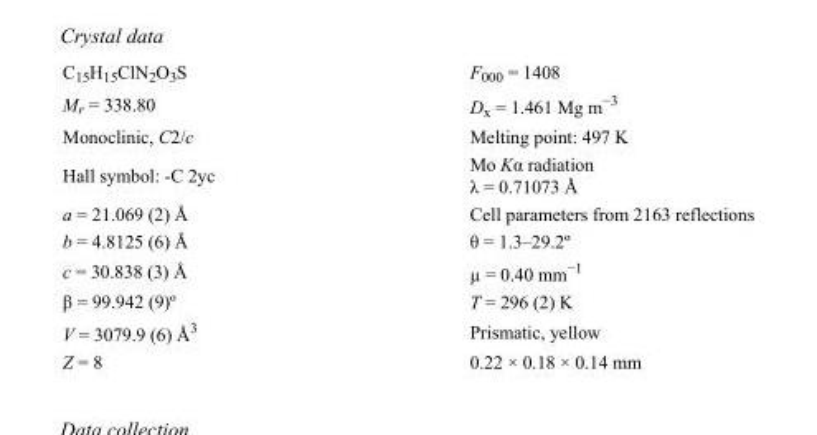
<table><tbody><tr><td>C<sub>15</sub>H<sub>15</sub>ClN<sub>2</sub>O<sub>3</sub>S</td><td>F<sub>000</sub> = 1408</td></tr><tr><td>M<sub>r</sub> = 338.80</td><td>D<sub>x</sub> = 1.461 Mg m<sup>−3</sup></td></tr><tr><td>Monoclinic, C2/c</td><td>Melting point: 497 K</td></tr><tr><td>Hall symbol: -C 2yc</td><td>Mo Kα radiation λ = 0.71073 Å</td></tr><tr><td>a = 21.069 (2) Å</td><td>Cell parameters from 2163 reflections</td></tr><tr><td>b = 4.8125 (6) Å</td><td>θ = 1.3–29.2º</td></tr><tr><td>c = 30.838 (3) Å</td><td>µ = 0.40 mm<sup>−1</sup></td></tr><tr><td>β = 99.942 (9)º</td><td>T = 296 (2) K</td></tr><tr><td>V = 3079.9 (6) Å<sup>3</sup></td><td>Prismatic, yellow</td></tr><tr><td>Z = 8</td><td>0.22 × 0.18 × 0.14 mm</td></tr></tbody></table>